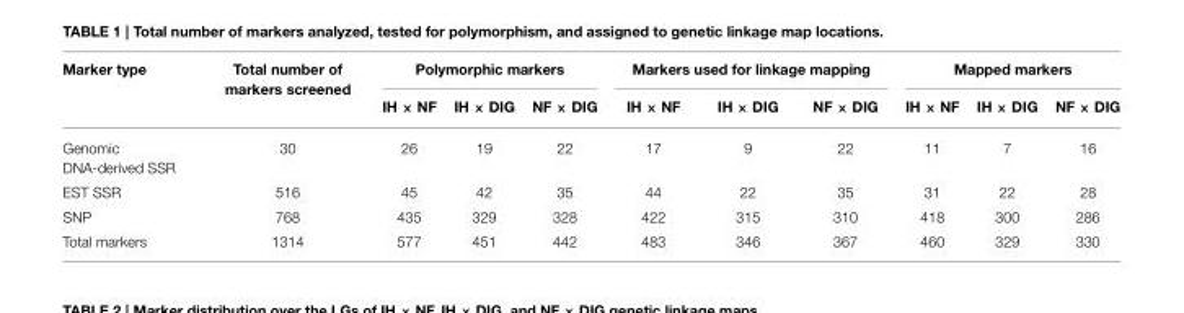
<table><thead><tr><td rowspan="2">Marker type</td><td rowspan="2">Total number of markers screened</td><td colspan="3">Polymorphic markers</td><td colspan="3">Markers used for linkage mapping</td><td colspan="3">Mapped markers</td></tr><tr><td>IH × NF</td><td>IH × DIG</td><td>NF × DIG</td><td>IH × NF</td><td>IH × DIG</td><td>NF × DIG</td><td>IH × NF</td><td>IH × DIG</td><td>NF × DIG</td></tr></thead><tbody><tr><td>Genomic DNA-derived SSR</td><td>30</td><td>26</td><td>19</td><td>22</td><td>17</td><td>9</td><td>22</td><td>11</td><td>7</td><td>16</td></tr><tr><td>EST SSR</td><td>516</td><td>45</td><td>42</td><td>35</td><td>44</td><td>22</td><td>35</td><td>31</td><td>22</td><td>28</td></tr><tr><td>SNP</td><td>768</td><td>435</td><td>329</td><td>328</td><td>422</td><td>315</td><td>310</td><td>418</td><td>300</td><td>286</td></tr><tr><td>Total markers</td><td>1314</td><td>577</td><td>451</td><td>442</td><td>483</td><td>346</td><td>367</td><td>460</td><td>329</td><td>330</td></tr></tbody></table>